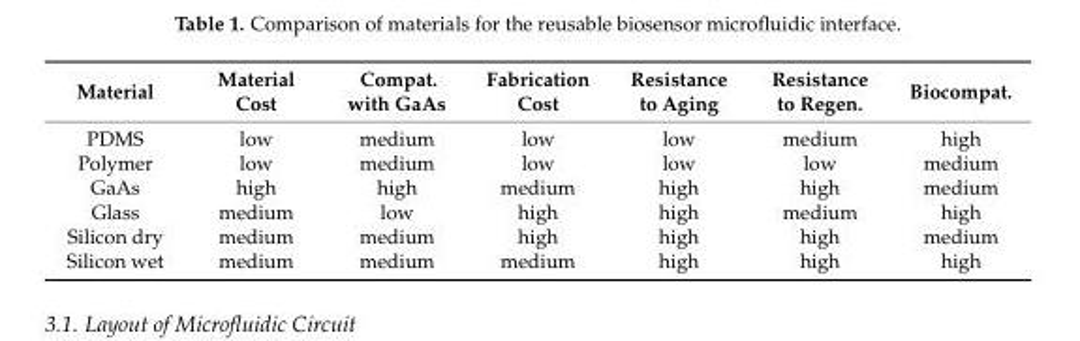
<table><thead><tr><td>Material</td><td>Material Cost</td><td>Compat. with GaAs</td><td>Fabrication Cost</td><td>Resistance to Aging</td><td>Resistance to Regen.</td><td>Biocompat.</td></tr></thead><tbody><tr><td>PDMS</td><td>low</td><td>medium</td><td>low</td><td>low</td><td>medium</td><td>high</td></tr><tr><td>Polymer</td><td>low</td><td>medium</td><td>low</td><td>low</td><td>low</td><td>medium</td></tr><tr><td>GaAs</td><td>high</td><td>high</td><td>medium</td><td>high</td><td>high</td><td>medium</td></tr><tr><td>Glass</td><td>medium</td><td>low</td><td>high</td><td>high</td><td>medium</td><td>high</td></tr><tr><td>Silicon dry</td><td>medium</td><td>medium</td><td>high</td><td>high</td><td>high</td><td>medium</td></tr><tr><td>Silicon wet</td><td>medium</td><td>medium</td><td>medium</td><td>high</td><td>high</td><td>high</td></tr></tbody></table>